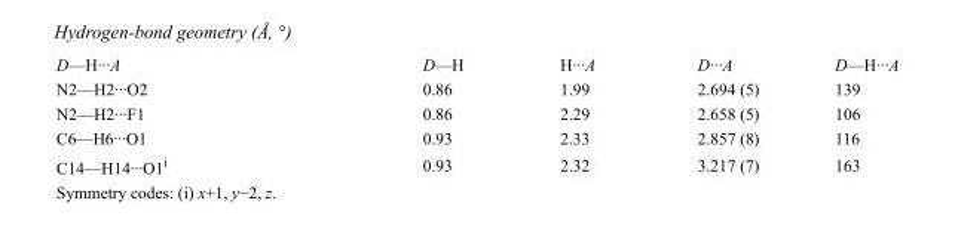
<table><tbody><tr><td>D—H···A</td><td>D—H</td><td>H···A</td><td>D···A</td><td>D—H···A</td></tr><tr><td>N2—H2···O2</td><td>0.86</td><td>1.99</td><td>2.694 (5)</td><td>139</td></tr><tr><td>N2—H2···F1</td><td>0.86</td><td>2.29</td><td>2.658 (5)</td><td>106</td></tr><tr><td>C6—H6···O1</td><td>0.93</td><td>2.33</td><td>2.857 (8)</td><td>116</td></tr><tr><td>C14—H14···O1<sup>i</sup></td><td>0.93</td><td>2.32</td><td>3.217 (7)</td><td>163</td></tr></tbody></table>